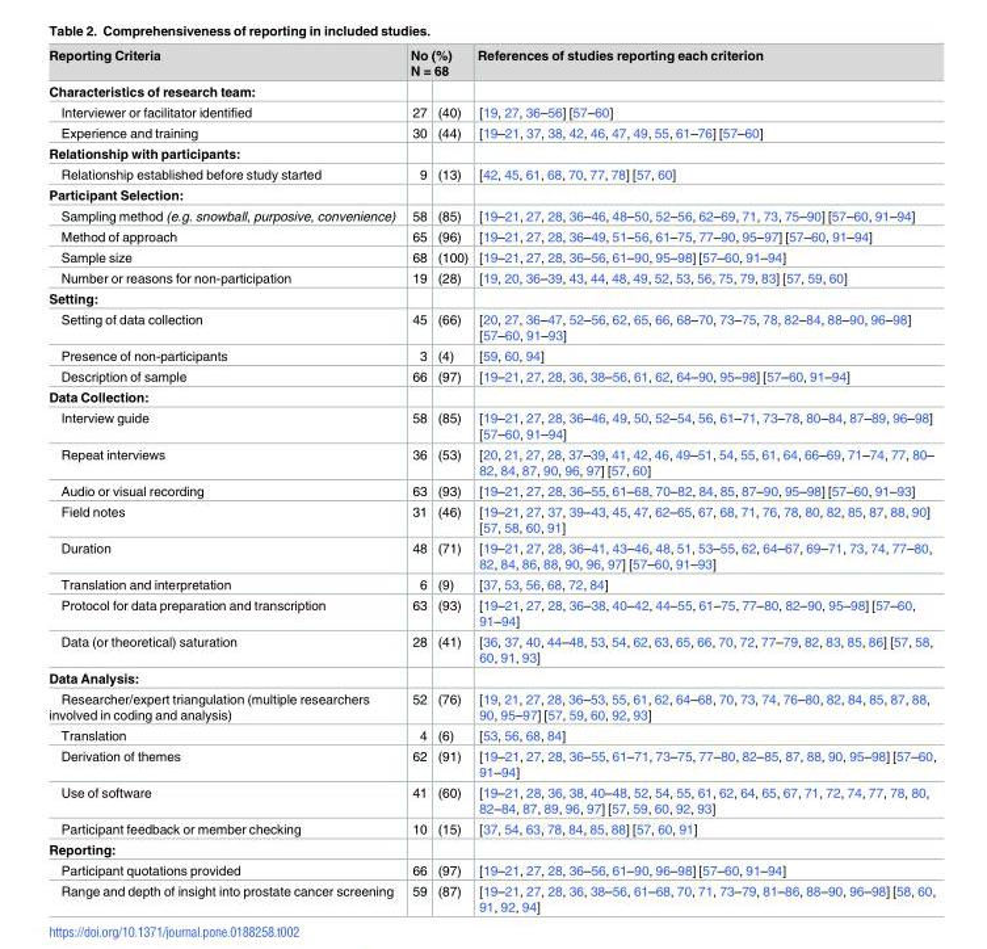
<table><thead><tr><td rowspan="2">Reporting Criteria Characteristics of research team:</td><td colspan="2">No (%) N = 68</td><td rowspan="2">References of studies reporting each criterion</td></tr><tr><td></td><td></td></tr></thead><tbody><tr><td>Interviewer or facilitator identified</td><td>27</td><td>(40)</td><td>[19, 27, 36–56] [57–60]</td></tr><tr><td>Experience and training</td><td>30</td><td>(44)</td><td>[19–21, 37, 38, 42, 46, 47, 49, 55, 61–76] [57–60]</td></tr><tr><td colspan="4">Relationship with participants:</td></tr><tr><td>Relationship established before study started</td><td>9</td><td>(13)</td><td>[42, 45, 61, 68, 70, 77, 78] [57, 60]</td></tr><tr><td colspan="4">Participant Selection:</td></tr><tr><td>Sampling method (e.g. snowball, purposive, convenience)</td><td>58</td><td>(85)</td><td>[19–21, 27, 28, 36–46, 48–50, 52–56, 62–69, 71, 73, 75–90] [57–60, 91–94]</td></tr><tr><td>Method of approach</td><td>65</td><td>(96)</td><td>[19–21, 27, 28, 36–49, 51–56, 61–75, 77–90, 95–97] [57–60, 91–94]</td></tr><tr><td>Sample size</td><td>68</td><td>(100)</td><td>[19–21, 27, 28, 36–56, 61–90, 95–98] [57–60, 91–94]</td></tr><tr><td>Number or reasons for non-participation</td><td>19</td><td>(28)</td><td>[19, 20, 36–39, 43, 44, 48, 49, 52, 53, 56, 75, 79, 83] [57, 59, 60]</td></tr><tr><td colspan="4">Setting:</td></tr><tr><td>Setting of data collection</td><td>45</td><td>(66)</td><td>[20, 27, 36–47, 52–56, 62, 65, 66, 68–70, 73–75, 78, 82–84, 88–90, 96–98] [57–60, 91–93]</td></tr><tr><td>Presence of non-participants</td><td>3</td><td>(4)</td><td>[59, 60, 94]</td></tr><tr><td>Description of sample</td><td>66</td><td>(97)</td><td>[19–21, 27, 28, 36, 38–56, 61, 62, 64–90, 95–98] [57–60, 91–94]</td></tr><tr><td colspan="4">Data Collection:</td></tr><tr><td>Interview guide</td><td>58</td><td>(85)</td><td>[19–21, 27, 28, 36–46, 49, 50, 52–54, 56, 61–71, 73–78, 80–84, 87–89, 96–98] [57–60, 91–94]</td></tr><tr><td>Repeat interviews</td><td>36</td><td>(53)</td><td>[20, 21, 27, 28, 37–39, 41, 42, 46, 49–51, 54, 55, 61, 64, 66–69, 71–74, 77, 80– 82, 84, 87, 90, 96, 97] [57, 60]</td></tr><tr><td>Audio or visual recording</td><td>63</td><td>(93)</td><td>[19–21, 27, 28, 36–55, 61–68, 70–82, 84, 85, 87–90, 95–98] [57–60, 91–93]</td></tr><tr><td>Field notes</td><td>31</td><td>(46)</td><td>[19–21, 27, 37, 39–43, 45, 47, 62–65, 67, 68, 71, 76, 78, 80, 82, 85, 87, 88, 90] [57, 58, 60, 91]</td></tr><tr><td>Duration</td><td>48</td><td>(71)</td><td>[19–21, 27, 28, 36–41, 43–46, 48, 51, 53–55, 62, 64–67, 69–71, 73, 74, 77–80, 82, 84, 86, 88, 90, 96, 97] [57–60, 91–93]</td></tr><tr><td>Translation and interpretation</td><td>6</td><td>(9)</td><td>[37, 53, 56, 68, 72, 84]</td></tr><tr><td>Protocol for data preparation and transcription</td><td>63</td><td>(93)</td><td>[19–21, 27, 28, 36–38, 40–42, 44–55, 61–75, 77–80, 82–90, 95–98] [57–60, 91–94]</td></tr><tr><td>Data (or theoretical) saturation</td><td>28</td><td>(41)</td><td>[36, 37, 40, 44–48, 53, 54, 62, 63, 65, 66, 70, 72, 77–79, 82, 83, 85, 86] [57, 58, 60, 91, 93]</td></tr><tr><td colspan="4">Data Analysis:</td></tr><tr><td>Researcher/expert triangulation (multiple researchers involved in coding and analysis)</td><td>52</td><td>(76)</td><td>[19, 21, 27, 28, 36–53, 55, 61, 62, 64–68, 70, 73, 74, 76–80, 82, 84, 85, 87, 88, 90, 95–97] [57, 59, 60, 92, 93]</td></tr><tr><td>Translation</td><td>4</td><td>(6)</td><td>[53, 56, 68, 84]</td></tr><tr><td>Derivation of themes</td><td>62</td><td>(91)</td><td>[19–21, 27, 28, 36–55, 61–71, 73–75, 77–80, 82–85, 87, 88, 90, 95–98] [57–60, 91–94]</td></tr><tr><td>Use of software</td><td>41</td><td>(60)</td><td>[19–21, 28, 36, 38, 40–48, 52, 54, 55, 61, 62, 64, 65, 67, 71, 72, 74, 77, 78, 80, 82–84, 87, 89, 96, 97] [57, 59, 60, 92, 93]</td></tr><tr><td>Participant feedback or member checking</td><td>10</td><td>(15)</td><td>[37, 54, 63, 78, 84, 85, 88] [57, 60, 91]</td></tr><tr><td colspan="4">Reporting:</td></tr><tr><td>Participant quotations provided</td><td>66</td><td>(97)</td><td>[19–21, 27, 28, 36–56, 61–90, 96–98] [57–60, 91–94]</td></tr><tr><td>Range and depth of insight into prostate cancer screening</td><td>59</td><td>(87)</td><td>[19–21, 27, 28, 36, 38–56, 61–68, 70, 71, 73–79, 81–86, 88–90, 96–98] [58, 60,</td></tr></tbody></table>